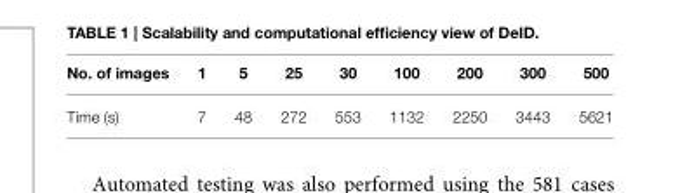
<table><thead><tr><td>No. of images</td><td>1</td><td>5</td><td>25</td><td>30</td><td>100</td><td>200</td><td>300</td><td>500</td></tr></thead><tbody><tr><td>Time (s)</td><td>7</td><td>48</td><td>272</td><td>553</td><td>1132</td><td>2250</td><td>3443</td><td>5621</td></tr></tbody></table>